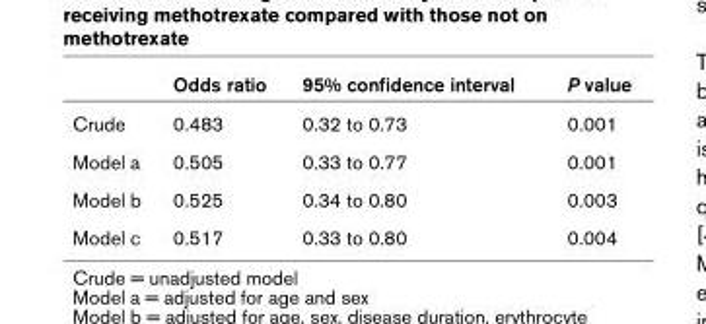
<table><thead><tr><td></td><td>Odds ratio</td><td>95% confidence interval</td><td>P value</td></tr></thead><tbody><tr><td>Crude</td><td>0.483</td><td>0.32 to 0.73</td><td>0.001</td></tr><tr><td>Model a</td><td>0.505</td><td>0.33 to 0.77</td><td>0.001</td></tr><tr><td>Model b</td><td>0.525</td><td>0.34 to 0.80</td><td>0.003</td></tr><tr><td>Model c</td><td>0.517</td><td>0.33 to 0.80</td><td>0.004</td></tr></tbody></table>